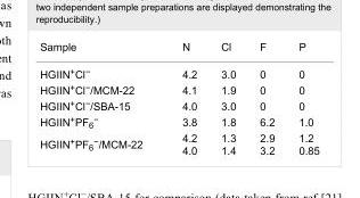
<table><tbody><tr><td>Sample</td><td>N</td><td>Cl</td><td>F</td><td>P</td></tr><tr><td>HGIIN<sup>+</sup>Cl<sup>−</sup></td><td>4.2</td><td>3.0</td><td>0</td><td>0</td></tr><tr><td>HGIIN<sup>+</sup>Cl<sup>−</sup>/MCM-22</td><td>4.1</td><td>1.9</td><td>0</td><td>0</td></tr><tr><td>HGIIN<sup>+</sup>Cl<sup>−</sup>/SBA-15</td><td>4.0</td><td>3.0</td><td>0</td><td>0</td></tr><tr><td>HGIIN<sup>+</sup>PF<sub>6</sub><sup>−</sup></td><td>3.8</td><td>1.8</td><td>6.2</td><td>1.0</td></tr><tr><td>HGIIN<sup>+</sup>PF<sub>6</sub><sup>−</sup>/MCM-22</td><td>4.2 4.0</td><td>1.3 1.4</td><td>2.9 3.2</td><td>1.2 0.85</td></tr></tbody></table>